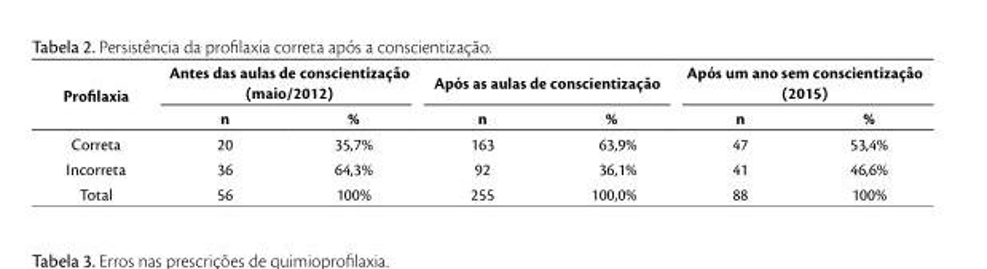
<table><thead><tr><td rowspan="2">Profilaxia</td><td colspan="2">Antes das aulas de conscientização (maio/2012)</td><td colspan="2">Após as aulas de conscientização</td><td colspan="2">Após um ano sem conscientização (2015)</td></tr><tr><td>n</td><td>%</td><td>n</td><td>%</td><td>n</td><td>%</td></tr></thead><tbody><tr><td>Correta</td><td>20</td><td>35,7%</td><td>163</td><td>63,9%</td><td>47</td><td>53,4%</td></tr><tr><td>Incorreta</td><td>36</td><td>64,3%</td><td>92</td><td>36,1%</td><td>41</td><td>46,6%</td></tr><tr><td>Total</td><td>56</td><td>100%</td><td>255</td><td>100,0%</td><td>88</td><td>100%</td></tr></tbody></table>